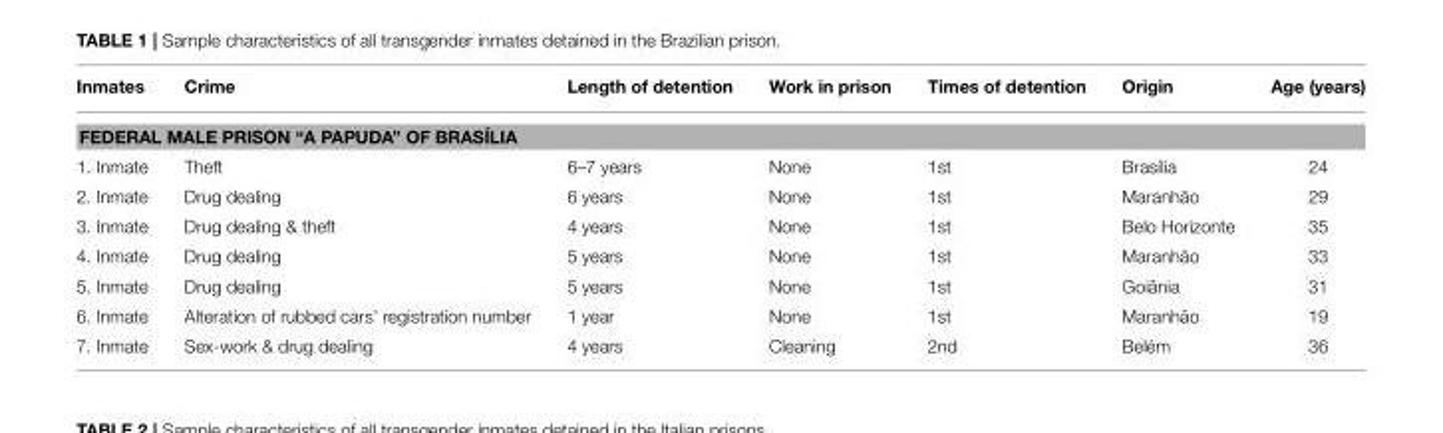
<table><thead><tr><td>Inmates</td><td>Crime</td><td>Length of detention</td><td>Work in prison</td><td>Times of detention</td><td>Origin</td><td>Age (years)</td></tr></thead><tbody><tr><td colspan="7">FEDERAL MALE PRISON “A PAPUDA” OF BRASÍLIA</td></tr><tr><td>1. Inmate</td><td>Theft</td><td>6–7 years</td><td>None</td><td>1st</td><td>Brasília</td><td>24</td></tr><tr><td>2. Inmate</td><td>Drug dealing</td><td>6 years</td><td>None</td><td>1st</td><td>Maranhão</td><td>29</td></tr><tr><td>3. Inmate</td><td>Drug dealing &amp; theft</td><td>4 years</td><td>None</td><td>1st</td><td>Belo Horizonte</td><td>35</td></tr><tr><td>4. Inmate</td><td>Drug dealing</td><td>5 years</td><td>None</td><td>1st</td><td>Maranhão</td><td>33</td></tr><tr><td>5. Inmate</td><td>Drug dealing</td><td>5 years</td><td>None</td><td>1st</td><td>Goiânia</td><td>31</td></tr><tr><td>6. Inmate</td><td>Alteration of rubbed cars’ registration number</td><td>1 year</td><td>None</td><td>1st</td><td>Maranhão</td><td>19</td></tr><tr><td>7. Inmate</td><td>Sex-work &amp; drug dealing</td><td>4 years</td><td>Cleaning</td><td>2nd</td><td>Belém</td><td>36</td></tr></tbody></table>